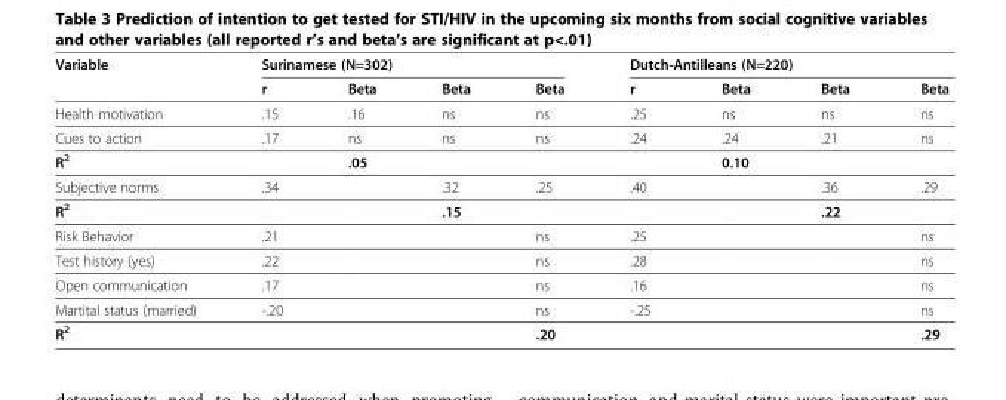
<table><thead><tr><td rowspan="2">Variable</td><td colspan="4">Surinamese (N=302)</td><td colspan="4">Dutch-Antilleans (N=220)</td></tr><tr><td>r</td><td>Beta</td><td>Beta</td><td>Beta</td><td>r</td><td>Beta</td><td>Beta</td><td>Beta</td></tr></thead><tbody><tr><td>Health motivation</td><td>.15</td><td>.16</td><td>ns</td><td>ns</td><td>.25</td><td>ns</td><td>ns</td><td>ns</td></tr><tr><td>Cues to action</td><td>.17</td><td>ns</td><td>ns</td><td>ns</td><td>.24</td><td>.24</td><td>.21</td><td>ns</td></tr><tr><td>R<sup>2</sup></td><td></td><td>.05</td><td></td><td></td><td></td><td>0.10</td><td></td><td></td></tr><tr><td>Subjective norms</td><td>.34</td><td></td><td>.32</td><td>.25</td><td>.40</td><td></td><td>.36</td><td>.29</td></tr><tr><td>R<sup>2</sup></td><td></td><td></td><td>.15</td><td></td><td></td><td></td><td>.22</td><td></td></tr><tr><td>Risk Behavior</td><td>.21</td><td></td><td></td><td>ns</td><td>.25</td><td></td><td></td><td>ns</td></tr><tr><td>Test history (yes)</td><td>.22</td><td></td><td></td><td>ns</td><td>.28</td><td></td><td></td><td>ns</td></tr><tr><td>Open communication</td><td>.17</td><td></td><td></td><td>ns</td><td>.16</td><td></td><td></td><td>ns</td></tr><tr><td>Martital status (married)</td><td>-.20</td><td></td><td></td><td>ns</td><td>-.25</td><td></td><td></td><td>ns</td></tr><tr><td>R<sup>2</sup></td><td></td><td></td><td></td><td>.20</td><td></td><td></td><td></td><td>.29</td></tr></tbody></table>